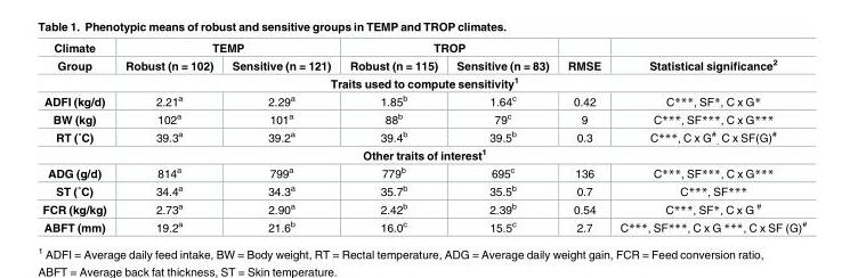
<table><thead><tr><td rowspan="2">Climate Group</td><td colspan="2">TEMP</td><td colspan="2">TROP</td><td rowspan="2">RMSE</td><td rowspan="2">Statistical significance<sup>2</sup></td></tr><tr><td>Robust (n = 102)</td><td>Sensitive (n = 121)</td><td>Robust (n = 115)</td><td>Sensitive (n = 83)</td></tr></thead><tbody><tr><td colspan="7">Traits used to compute sensitivity<sup>1</sup></td></tr><tr><td>ADFI (kg/d)</td><td>2.21<sup>a</sup></td><td>2.29<sup>a</sup></td><td>1.85<sup>b</sup></td><td>1.64<sup>c</sup></td><td>0.42</td><td>C***, SF*, C x G*</td></tr><tr><td>BW (kg)</td><td>102<sup>a</sup></td><td>101<sup>a</sup></td><td>88<sup>b</sup></td><td>79<sup>c</sup></td><td>9</td><td>C***, SF***, C x G***</td></tr><tr><td>RT (˚C)</td><td>39.3<sup>a</sup></td><td>39.2<sup>a</sup></td><td>39.4<sup>b</sup></td><td>39.5<sup>b</sup></td><td>0.3</td><td>C***, C x G<sup>#</sup> <sub>,</sub> C x SF(G)<sup>#</sup></td></tr><tr><td colspan="7">Other traits of interest<sup>1</sup></td></tr><tr><td>ADG (g/d)</td><td>814<sup>a</sup></td><td>799<sup>a</sup></td><td>779<sup>b</sup></td><td>695<sup>c</sup></td><td>136</td><td>C***, SF***, C x G***</td></tr><tr><td>ST (˚C)</td><td>34.4<sup>a</sup></td><td>34.3<sup>a</sup></td><td>35.7<sup>b</sup></td><td>35.5<sup>b</sup></td><td>0.7</td><td>C***, SF***</td></tr><tr><td>FCR (kg/kg)</td><td>2.73<sup>a</sup></td><td>2.90<sup>a</sup></td><td>2.42<sup>b</sup></td><td>2.39<sup>b</sup></td><td>0.54</td><td>C***, SF*, C x G <sup>#</sup></td></tr><tr><td>ABFT (mm)</td><td>19.2<sup>a</sup></td><td>21.6<sup>b</sup></td><td>16.0<sup>c</sup></td><td>15.5<sup>c</sup></td><td>2.7</td><td>C***, SF***, C x G ***, C x SF (G)<sup>#</sup></td></tr></tbody></table>